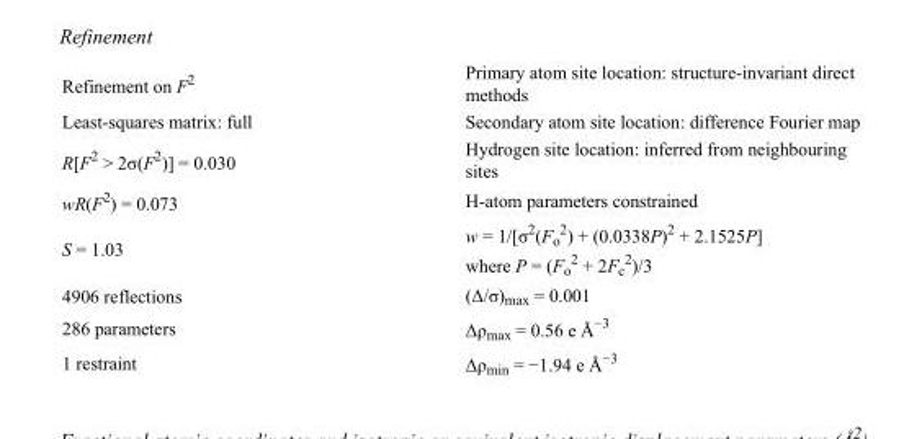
<table><tbody><tr><td>Refinement on F<sup>2</sup></td><td>Primary atom site location: structure-invariant direct methods</td></tr><tr><td>Least-squares matrix: full</td><td>Secondary atom site location: difference Fourier map</td></tr><tr><td>R[F<sup>2</sup> &gt; 2σ(F<sup>2</sup>)] = 0.030</td><td>Hydrogen site location: inferred from neighbouring sites</td></tr><tr><td>wR(F<sup>2</sup>) = 0.073</td><td>H-atom parameters constrained</td></tr><tr><td>S = 1.03</td><td>w = 1/[σ<sup>2</sup>(F<sub>o</sub> <sup>2</sup>) + (0.0338P)<sup>2</sup> + 2.1525P] where P = (F<sub>o</sub> <sup>2</sup> + 2F<sub>c</sub> <sup>2</sup>)/3</td></tr><tr><td>4906 reflections</td><td>(Δ/σ)<sub>max</sub> = 0.001</td></tr><tr><td>286 parameters</td><td>Δρ<sub>max</sub> = 0.56 e Å<sup>−3</sup></td></tr><tr><td>1 restraint</td><td>Δρ<sub>min</sub> = −1.94 e Å<sup>−3</sup></td></tr></tbody></table>